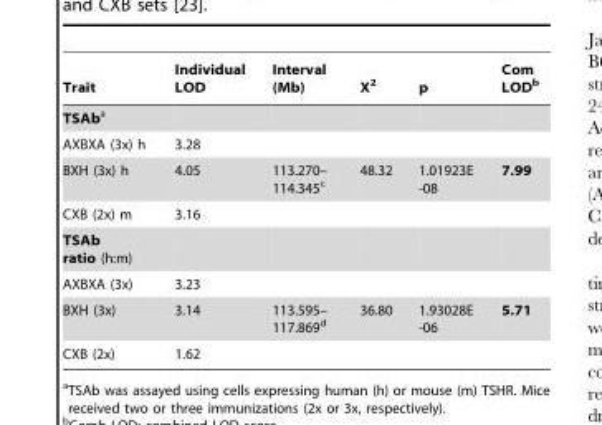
<table><thead><tr><td>Trait</td><td>Individual LOD</td><td>Interval (Mb)</td><td>X<sup>2</sup></td><td>p</td><td>Com LOD<sup>b</sup></td></tr></thead><tbody><tr><td colspan="6">TSAba</td></tr><tr><td>AXBXA (3x) h</td><td>3.28</td><td></td><td></td><td></td><td></td></tr><tr><td>BXH (3x) h</td><td>4.05</td><td>113.270– 114.345<sup>c</sup></td><td>48.32</td><td>1.01923E -08</td><td>7.99</td></tr><tr><td>CXB (2x) m</td><td>3.16</td><td></td><td></td><td></td><td></td></tr><tr><td colspan="6">TSAb ratio (h:m)</td></tr><tr><td>AXBXA (3x)</td><td>3.23</td><td></td><td></td><td></td><td></td></tr><tr><td>BXH (3x)</td><td>3.14</td><td>113.595– 117.869<sup>d</sup></td><td>36.80</td><td>1.93028E -06</td><td>5.71</td></tr><tr><td>CXB (2x)</td><td>1.62</td><td></td><td></td><td></td><td></td></tr></tbody></table>